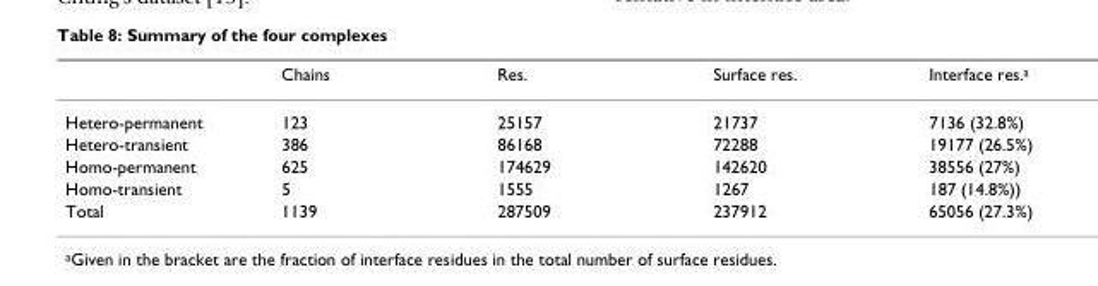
<table><thead><tr><td></td><td>Chains</td><td>Res.</td><td>Surface res.</td><td>Interface res.<sup>a</sup></td></tr></thead><tbody><tr><td>Hetero-permanent</td><td>123</td><td>25157</td><td>21737</td><td>7136 (32.8%)</td></tr><tr><td>Hetero-transient</td><td>386</td><td>86168</td><td>72288</td><td>19177 (26.5%)</td></tr><tr><td>Homo-permanent</td><td>625</td><td>174629</td><td>142620</td><td>38556 (27%)</td></tr><tr><td>Homo-transient</td><td>5</td><td>1555</td><td>1267</td><td>187 (14.8%))</td></tr><tr><td>Total</td><td>1139</td><td>287509</td><td>237912</td><td>65056 (27.3%)</td></tr></tbody></table>